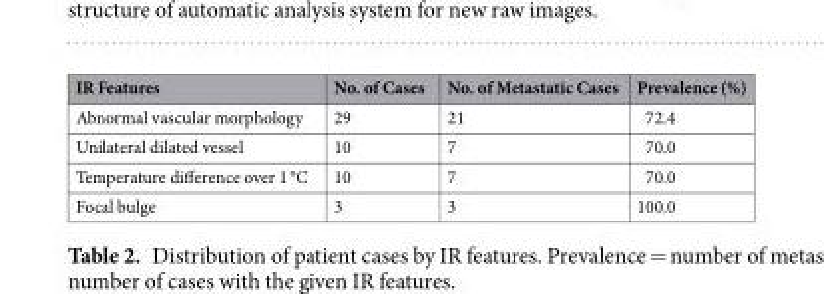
<table><thead><tr><td>IR Features</td><td>No. of Cases</td><td>No. of Metastatic Cases</td><td>Prevalence (%)</td></tr></thead><tbody><tr><td>Abnormal vascular morphology</td><td>29</td><td>21</td><td>72.4</td></tr><tr><td>Unilateral dilated vessel</td><td>10</td><td>7</td><td>70.0</td></tr><tr><td>Temperature difference over 1 °C</td><td>10</td><td>7</td><td>70.0</td></tr><tr><td>Focal bulge</td><td>3</td><td>3</td><td>100.0</td></tr></tbody></table>